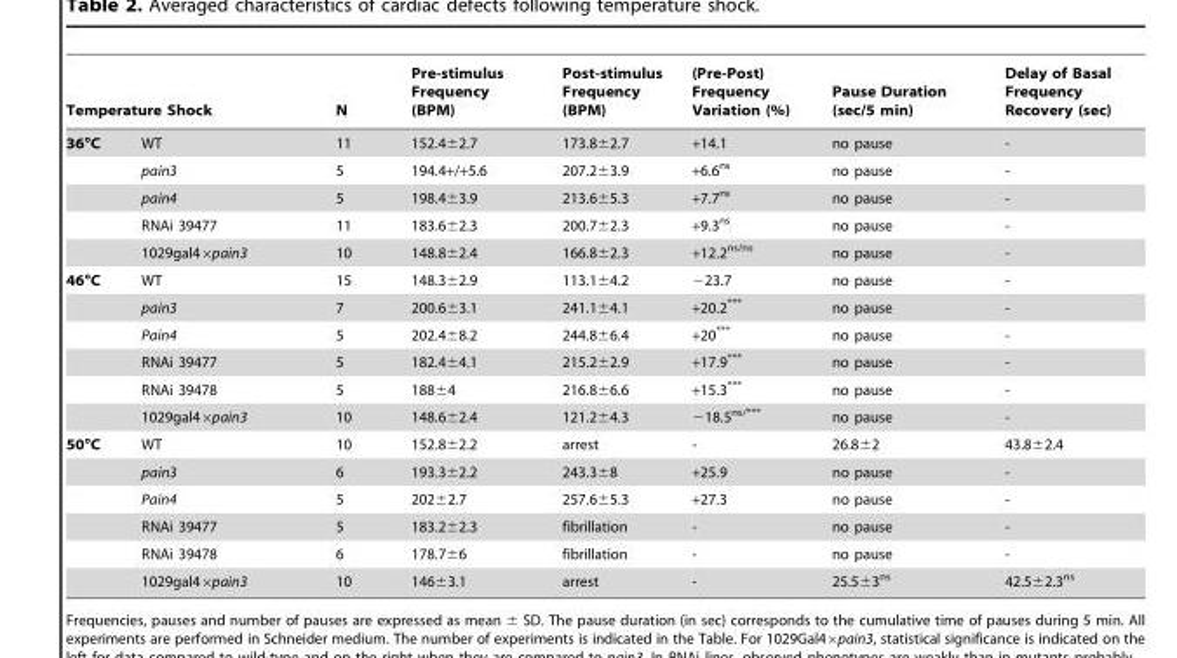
<table><thead><tr><td colspan="2">Temperature Shock</td><td rowspan="2">N 11</td><td rowspan="2">Pre-stimulus Frequency (BPM) 152.4±2.7</td><td rowspan="2">Post-stimulus Frequency (BPM) 173.8±2.7</td><td rowspan="2">(Pre-Post) Frequency Variation (%) +14.1</td><td rowspan="2">Pause Duration (sec/5 min) no pause</td><td rowspan="2">Delay of Basal Frequency Recovery (sec) -</td></tr><tr><td>36°C</td><td>WT</td></tr></thead><tbody><tr><td></td><td>pain3</td><td>5</td><td>194.4+/+5.6</td><td>207.2±3.9</td><td>+6.6<sup>ns</sup></td><td>no pause</td><td>-</td></tr><tr><td></td><td>pain4</td><td>5</td><td>198.4±3.9</td><td>213.6±5.3</td><td>+7.7<sup>ns</sup></td><td>no pause</td><td>-</td></tr><tr><td></td><td>RNAi 39477</td><td>11</td><td>183.6±2.3</td><td>200.7±2.3</td><td>+9.3<sup>ns</sup></td><td>no pause</td><td>-</td></tr><tr><td></td><td>1029gal4×pain3</td><td>10</td><td>148.8±2.4</td><td>166.8±2.3</td><td>+12.2<sup>ns/ns</sup></td><td>no pause</td><td>-</td></tr><tr><td rowspan="6">46°C</td><td>WT</td><td>15</td><td>148.3±2.9</td><td>113.1±4.2</td><td>−23.7</td><td>no pause</td><td>-</td></tr><tr><td>pain3</td><td>7</td><td>200.6±3.1</td><td>241.1±4.1</td><td>+20.2***</td><td>no pause</td><td>-</td></tr><tr><td>Pain4</td><td>5</td><td>202.4±8.2</td><td>244.8±6.4</td><td>+20***</td><td>no pause</td><td>-</td></tr><tr><td>RNAi 39477</td><td>5</td><td>182.4±4.1</td><td>215.2±2.9</td><td>+17.9***</td><td>no pause</td><td>-</td></tr><tr><td>RNAi 39478</td><td>5</td><td>188±4</td><td>216.8±6.6</td><td>+15.3***</td><td>no pause</td><td>-</td></tr><tr><td>1029gal4×pain3</td><td>10</td><td>148.6±2.4</td><td>121.2±4.3</td><td>−18.5<sup>ns/***</sup></td><td>no pause</td><td>-</td></tr><tr><td rowspan="6">50°C</td><td>WT</td><td>10</td><td>152.8±2.2</td><td>arrest</td><td>-</td><td>26.8±2</td><td>43.8±2.4</td></tr><tr><td>pain3</td><td>6</td><td>193.3±2.2</td><td>243.3±8</td><td>+25.9</td><td>no pause</td><td>-</td></tr><tr><td>Pain4</td><td>5</td><td>202±2.7</td><td>257.6±5.3</td><td>+27.3</td><td>no pause</td><td>-</td></tr><tr><td>RNAi 39477</td><td>5</td><td>183.2±2.3</td><td>fibrillation</td><td>-</td><td>no pause</td><td>-</td></tr><tr><td>RNAi 39478</td><td>6</td><td>178.7±6</td><td>fibrillation</td><td>-</td><td>no pause</td><td>-</td></tr><tr><td>1029gal4×pain3</td><td>10</td><td>146±3.1</td><td>arrest</td><td>-</td><td>25.5±3<sup>ns</sup></td><td>42.5±2.3<sup>ns</sup></td></tr></tbody></table>